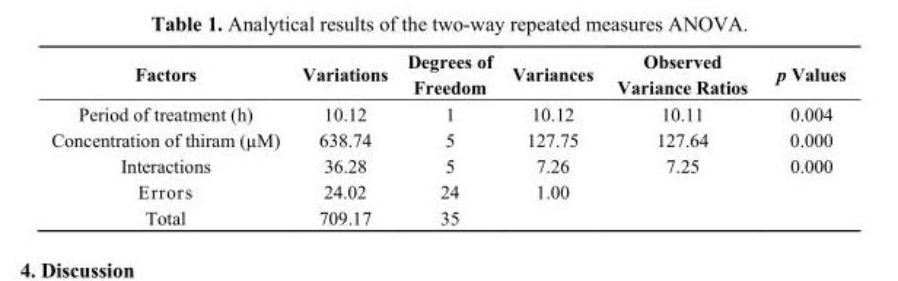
<table><thead><tr><td>Factors</td><td>Variations</td><td>Degrees of Freedom</td><td>Variances</td><td>Observed Variance Ratios</td><td>p Values</td></tr></thead><tbody><tr><td>Period of treatment (h)</td><td>10.12</td><td>1</td><td>10.12</td><td>10.11</td><td>0.004</td></tr><tr><td>Concentration of thiram (µM)</td><td>638.74</td><td>5</td><td>127.75</td><td>127.64</td><td>0.000</td></tr><tr><td>Interactions</td><td>36.28</td><td>5</td><td>7.26</td><td>7.25</td><td>0.000</td></tr><tr><td>Errors</td><td>24.02</td><td>24</td><td>1.00</td><td></td><td></td></tr><tr><td>Total</td><td>709.17</td><td>35</td><td></td><td></td><td></td></tr></tbody></table>